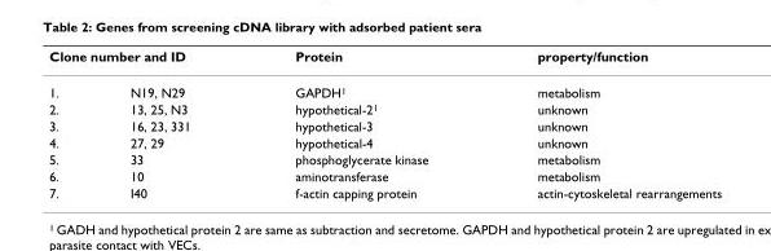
<table><thead><tr><td colspan="2">Clone number and ID</td><td rowspan="2">Protein GAPDH<sup>1</sup></td><td rowspan="2">property/function metabolism</td></tr><tr><td>1.</td><td>N19, N29</td></tr></thead><tbody><tr><td>2.</td><td>13, 25, N3</td><td>hypothetical-2<sup>1</sup></td><td>unknown</td></tr><tr><td>3.</td><td>16, 23, 331</td><td>hypothetical-3</td><td>unknown</td></tr><tr><td>4.</td><td>27, 29</td><td>hypothetical-4</td><td>unknown</td></tr><tr><td>5.</td><td>33</td><td>phosphoglycerate kinase</td><td>metabolism</td></tr><tr><td>6.</td><td>10</td><td>aminotransferase</td><td>metabolism</td></tr><tr><td>7.</td><td>I40</td><td>f-actin capping protein</td><td>actin-cytoskeletal rearrangements</td></tr></tbody></table>